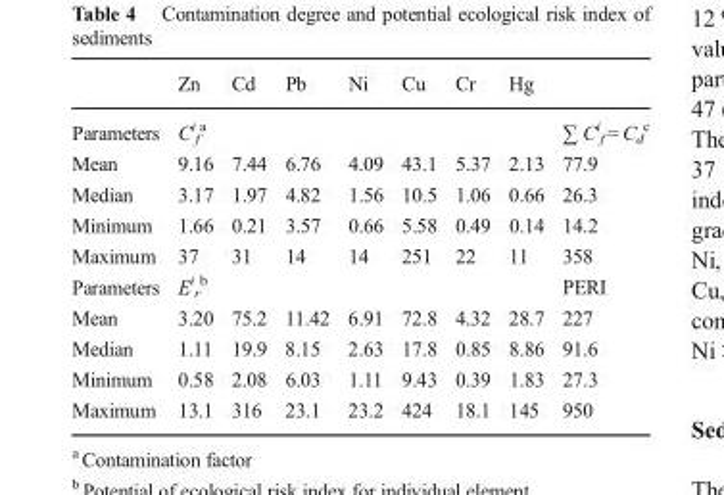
<table><thead><tr><td></td><td>Zn</td><td>Cd</td><td>Pb</td><td>Ni</td><td>Cu</td><td>Cr</td><td>Hg</td><td></td></tr></thead><tbody><tr><td>Parameters</td><td colspan="7">C<sup>i</sup> <sub>f</sub> <sup>a</sup></td><td>∑ C<sup>i</sup> <sub>f</sub> = C<sub>d</sub> <sup>c</sup></td></tr><tr><td>Mean</td><td>9.16</td><td>7.44</td><td>6.76</td><td>4.09</td><td>43.1</td><td>5.37</td><td>2.13</td><td>77.9</td></tr><tr><td>Median</td><td>3.17</td><td>1.97</td><td>4.82</td><td>1.56</td><td>10.5</td><td>1.06</td><td>0.66</td><td>26.3</td></tr><tr><td>Minimum</td><td>1.66</td><td>0.21</td><td>3.57</td><td>0.66</td><td>5.58</td><td>0.49</td><td>0.14</td><td>14.2</td></tr><tr><td>Maximum</td><td>37</td><td>31</td><td>14</td><td>14</td><td>251</td><td>22</td><td>11</td><td>358</td></tr><tr><td>Parameters</td><td colspan="7">E<sup>i</sup> <sub>r</sub> <sup>b</sup></td><td>PERI</td></tr><tr><td>Mean</td><td>3.20</td><td>75.2</td><td>11.42</td><td>6.91</td><td>72.8</td><td>4.32</td><td>28.7</td><td>227</td></tr><tr><td>Median</td><td>1.11</td><td>19.9</td><td>8.15</td><td>2.63</td><td>17.8</td><td>0.85</td><td>8.86</td><td>91.6</td></tr><tr><td>Minimum</td><td>0.58</td><td>2.08</td><td>6.03</td><td>1.11</td><td>9.43</td><td>0.39</td><td>1.83</td><td>27.3</td></tr><tr><td>Maximum</td><td>13.1</td><td>316</td><td>23.1</td><td>23.2</td><td>424</td><td>18.1</td><td>145</td><td>950</td></tr></tbody></table>